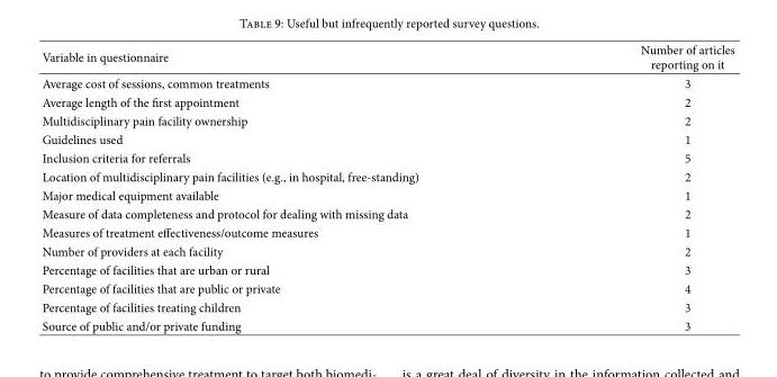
<table><thead><tr><td>Variable in questionnaire</td><td>Number of articles reporting on it</td></tr></thead><tbody><tr><td>Average cost of sessions, common treatments</td><td>3</td></tr><tr><td>Average length of the first appointment</td><td>2</td></tr><tr><td>Multidisciplinary pain facility ownership</td><td>2</td></tr><tr><td>Guidelines used</td><td>1</td></tr><tr><td>Inclusion criteria for referrals</td><td>5</td></tr><tr><td>Location of multidisciplinary pain facilities (e.g., in hospital, free-standing)</td><td>2</td></tr><tr><td>Major medical equipment available</td><td>1</td></tr><tr><td>Measure of data completeness and protocol for dealing with missing data</td><td>2</td></tr><tr><td>Measures of treatment effectiveness/outcome measures</td><td>1</td></tr><tr><td>Number of providers at each facility</td><td>2</td></tr><tr><td>Percentage of facilities that are urban or rural</td><td>3</td></tr><tr><td>Percentage of facilities that are public or private</td><td>4</td></tr><tr><td>Percentage of facilities treating children</td><td>3</td></tr><tr><td>Source of public and/or private funding</td><td>3</td></tr></tbody></table>